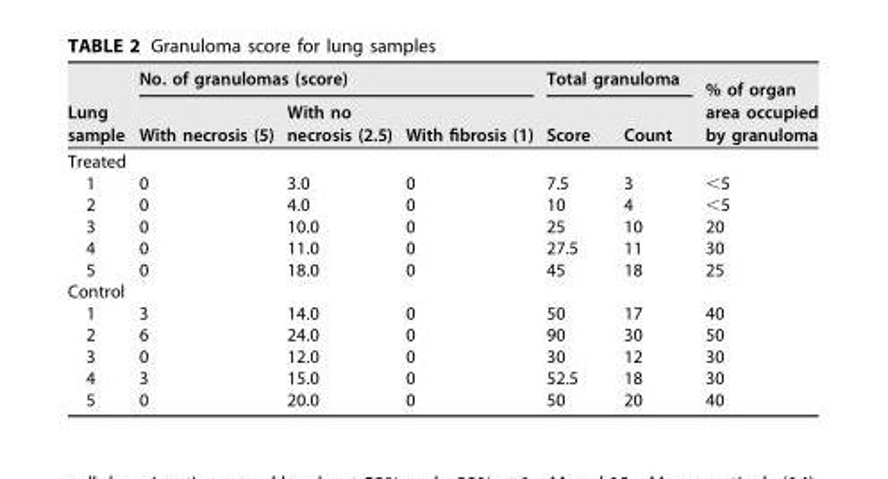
<table><thead><tr><td rowspan="2">Lung sample</td><td colspan="3">No. of granulomas (score)</td><td colspan="2">Total granuloma</td><td rowspan="2">% of organ area occupied by granuloma</td></tr><tr><td>With necrosis (5)</td><td>With no necrosis (2.5)</td><td>With fibrosis (1)</td><td>Score</td><td>Count</td></tr></thead><tbody><tr><td colspan="7">Treated</td></tr><tr><td>1</td><td>0</td><td>3.0</td><td>0</td><td>7.5</td><td>3</td><td>&lt;5</td></tr><tr><td>2</td><td>0</td><td>4.0</td><td>0</td><td>10</td><td>4</td><td>&lt;5</td></tr><tr><td>3</td><td>0</td><td>10.0</td><td>0</td><td>25</td><td>10</td><td>20</td></tr><tr><td>4</td><td>0</td><td>11.0</td><td>0</td><td>27.5</td><td>11</td><td>30</td></tr><tr><td>5</td><td>0</td><td>18.0</td><td>0</td><td>45</td><td>18</td><td>25</td></tr><tr><td colspan="7">Control</td></tr><tr><td>1</td><td>3</td><td>14.0</td><td>0</td><td>50</td><td>17</td><td>40</td></tr><tr><td>2</td><td>6</td><td>24.0</td><td>0</td><td>90</td><td>30</td><td>50</td></tr><tr><td>3</td><td>0</td><td>12.0</td><td>0</td><td>30</td><td>12</td><td>30</td></tr><tr><td>4</td><td>3</td><td>15.0</td><td>0</td><td>52.5</td><td>18</td><td>30</td></tr><tr><td>5</td><td>0</td><td>20.0</td><td>0</td><td>50</td><td>20</td><td>40</td></tr></tbody></table>